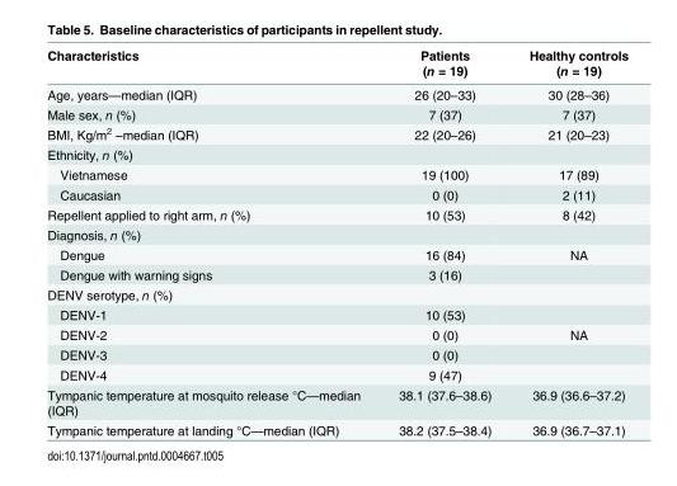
<table><thead><tr><td>Characteristics</td><td>Patients (n = 19)</td><td>Healthy controls (n = 19)</td></tr></thead><tbody><tr><td>Age, years—median (IQR)</td><td>26 (20–33)</td><td>30 (28–36)</td></tr><tr><td>Male sex, n (%)</td><td>7 (37)</td><td>7 (37)</td></tr><tr><td>BMI, Kg/m<sup>2</sup> –median (IQR)</td><td>22 (20–26)</td><td>21 (20–23)</td></tr><tr><td colspan="3">Ethnicity, n (%)</td></tr><tr><td>Vietnamese</td><td>19 (100)</td><td>17 (89)</td></tr><tr><td>Caucasian</td><td>0 (0)</td><td>2 (11)</td></tr><tr><td>Repellent applied to right arm, n (%)</td><td>10 (53)</td><td>8 (42)</td></tr><tr><td colspan="3">Diagnosis, n (%)</td></tr><tr><td>Dengue</td><td>16 (84)</td><td>NA</td></tr><tr><td>Dengue with warning signs</td><td>3 (16)</td><td></td></tr><tr><td colspan="3">DENV serotype, n (%)</td></tr><tr><td>DENV-1</td><td>10 (53)</td><td></td></tr><tr><td>DENV-2</td><td>0 (0)</td><td>NA</td></tr><tr><td>DENV-3</td><td>0 (0)</td><td></td></tr><tr><td>DENV-4</td><td>9 (47)</td><td></td></tr><tr><td>Tympanic temperature at mosquito release °C—median (IQR)</td><td>38.1 (37.6–38.6)</td><td>36.9 (36.6–37.2)</td></tr><tr><td>Tympanic temperature at landing °C—median (IQR)</td><td>38.2 (37.5–38.4)</td><td>36.9 (36.7–37.1)</td></tr></tbody></table>